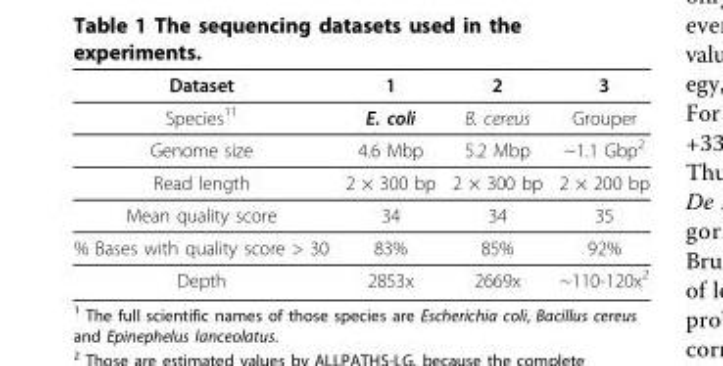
<table><thead><tr><td>Dataset</td><td>1</td><td>2</td><td>3</td></tr></thead><tbody><tr><td>Species<sup>11</sup></td><td>E. coli</td><td>B. cereus</td><td>Grouper</td></tr><tr><td>Genome size</td><td>4.6 Mbp</td><td>5.2 Mbp</td><td>~1.1 Gbp<sup>2</sup></td></tr><tr><td>Read length</td><td>2 × 300 bp</td><td>2 × 300 bp</td><td>2 × 200 bp</td></tr><tr><td>Mean quality score</td><td>34</td><td>34</td><td>35</td></tr><tr><td>% Bases with quality score &gt; 30</td><td>83%</td><td>85%</td><td>92%</td></tr><tr><td>Depth</td><td>2853x</td><td>2669x</td><td>~110-120x<sup>2</sup></td></tr></tbody></table>